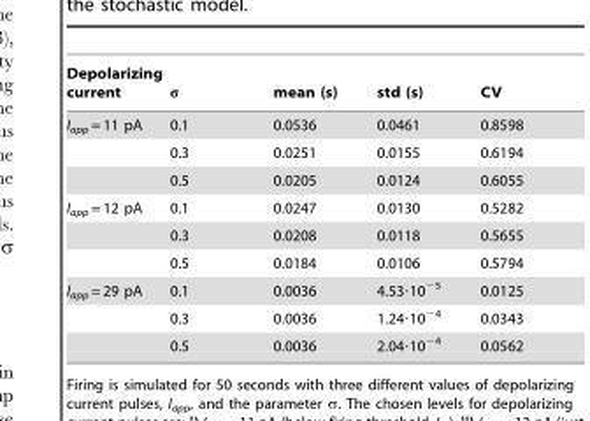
<table><thead><tr><td>Depolarizing current</td><td>σ</td><td>mean (s)</td><td>std (s)</td><td>CV</td></tr></thead><tbody><tr><td rowspan="3">I<sub>app</sub> = 11 pA</td><td>0.1</td><td>0.0536</td><td>0.0461</td><td>0.8598</td></tr><tr><td>0.3</td><td>0.0251</td><td>0.0155</td><td>0.6194</td></tr><tr><td>0.5</td><td>0.0205</td><td>0.0124</td><td>0.6055</td></tr><tr><td rowspan="3">I<sub>app</sub> = 12 pA</td><td>0.1</td><td>0.0247</td><td>0.0130</td><td>0.5282</td></tr><tr><td>0.3</td><td>0.0208</td><td>0.0118</td><td>0.5655</td></tr><tr><td>0.5</td><td>0.0184</td><td>0.0106</td><td>0.5794</td></tr><tr><td rowspan="3">I<sub>app</sub> = 29 pA</td><td>0.1</td><td>0.0036</td><td>4.53⋅10<sup>−5</sup></td><td>0.0125</td></tr><tr><td>0.3</td><td>0.0036</td><td>1.24⋅10<sup>−4</sup></td><td>0.0343</td></tr><tr><td>0.5</td><td>0.0036</td><td>2.04⋅10<sup>−4</sup></td><td>0.0562</td></tr></tbody></table>